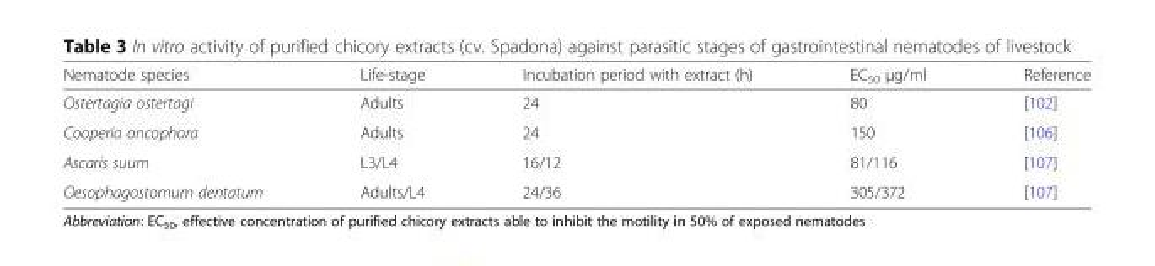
<table><thead><tr><td>Nematode species</td><td>Life-stage</td><td>Incubation period with extract (h)</td><td>EC<sub>50</sub> μg/ml</td><td>Reference</td></tr></thead><tbody><tr><td>Ostertagia ostertagi</td><td>Adults</td><td>24</td><td>80</td><td>[102]</td></tr><tr><td>Cooperia oncophora</td><td>Adults</td><td>24</td><td>150</td><td>[106]</td></tr><tr><td>Ascaris suum</td><td>L3/L4</td><td>16/12</td><td>81/116</td><td>[107]</td></tr><tr><td>Oesophagostomum dentatum</td><td>Adults/L4</td><td>24/36</td><td>305/372</td><td>[107]</td></tr></tbody></table>